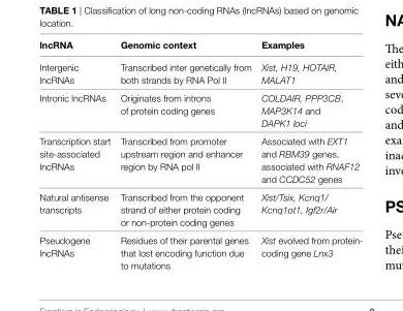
<table><thead><tr><td>lncRNA</td><td>Genomic context</td><td>examples</td></tr></thead><tbody><tr><td>Intergenic lncRNAs</td><td>Transcribed inter genetically from both strands by RNA Pol II</td><td>Xist, H19, HOTAIR, MALAT1</td></tr><tr><td>Intronic lncRNAs</td><td>Originates from introns of protein coding genes</td><td>COLDAIR, PPP3CB, MAP3K14 and DAPK1 loci</td></tr><tr><td>Transcription start site-associated lncRNAs</td><td>Transcribed from promoter upstream region and enhancer region by RNA pol II</td><td>Associated with EXT1 and RBM39 genes, associated with RNAF12 and CCDC52 genes</td></tr><tr><td>Natural antisense transcripts</td><td>Transcribed from the opponent strand of either protein coding or non-protein coding genes</td><td>Xist/Tsix, Kcnq1/ Kcnq1ot1, Igf2r/Air</td></tr><tr><td>Pseudogene lncRNAs</td><td>Residues of their parental genes that lost encoding function due to mutations</td><td>Xist evolved from protein- coding gene Lnx3</td></tr></tbody></table>